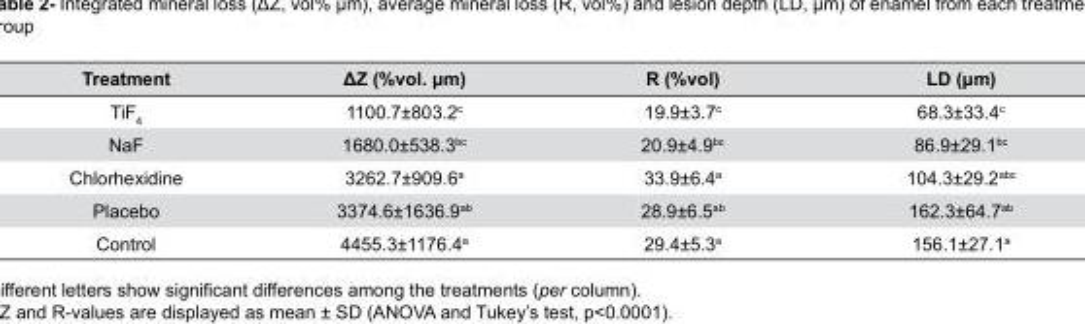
<table><thead><tr><td>Treatment</td><td>ΔZ (%vol. μm)</td><td>R (%vol)</td><td>LD (μm)</td></tr></thead><tbody><tr><td>TiF<sub>4</sub></td><td>1100.7±803.2<sup>c</sup></td><td>19.9±3.7<sup>c</sup></td><td>68.3±33.4<sup>c</sup></td></tr><tr><td>NaF</td><td>1680.0±538.3<sup>bc</sup></td><td>20.9±4.9<sup>bc</sup></td><td>86.9±29.1<sup>bc</sup></td></tr><tr><td>Chlorhexidine</td><td>3262.7±909.6<sup>a</sup></td><td>33.9±6.4<sup>a</sup></td><td>104.3±29.2<sup>abc</sup></td></tr><tr><td>Placebo</td><td>3374.6±1636.9<sup>ab</sup></td><td>28.9±6.5<sup>ab</sup></td><td>162.3±64.7<sup>ab</sup></td></tr><tr><td>Control</td><td>4455.3±1176.4<sup>a</sup></td><td>29.4±5.3<sup>a</sup></td><td>156.1±27.1<sup>a</sup></td></tr></tbody></table>